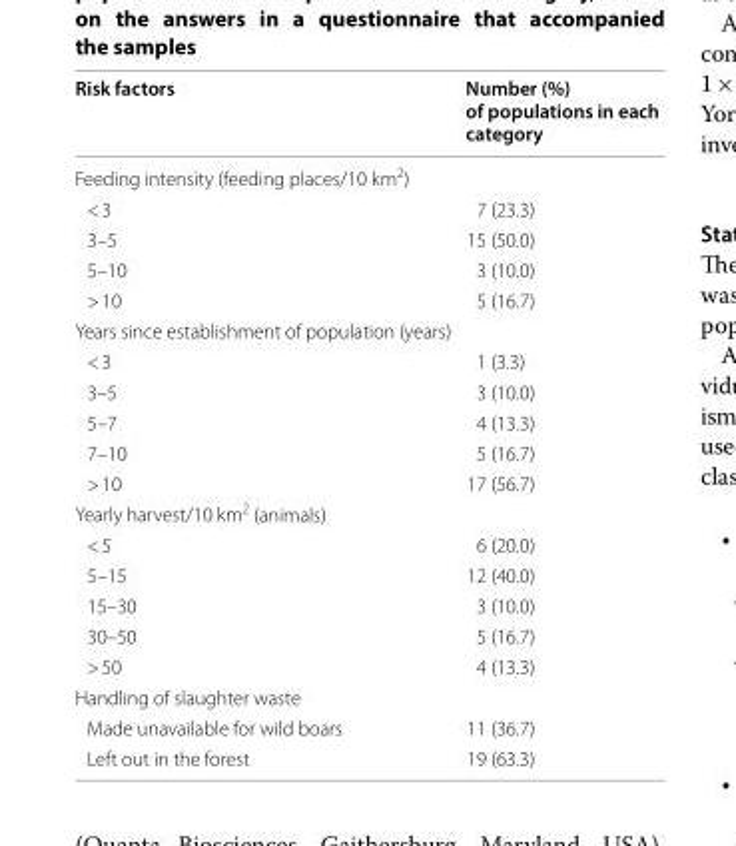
<table><thead><tr><td>Risk factors</td><td>Number (%) of populations in each category</td></tr></thead><tbody><tr><td colspan="2">Feeding intensity (feeding places/10 km<sup>2</sup>)</td></tr><tr><td>&lt; 3</td><td>7 (23.3)</td></tr><tr><td>3–5</td><td>15 (50.0)</td></tr><tr><td>5–10</td><td>3 (10.0)</td></tr><tr><td>&gt; 10</td><td>5 (16.7)</td></tr><tr><td colspan="2">Years since establishment of population (years)</td></tr><tr><td>&lt; 3</td><td>1 (3.3)</td></tr><tr><td>3–5</td><td>3 (10.0)</td></tr><tr><td>5–7</td><td>4 (13.3)</td></tr><tr><td>7–10</td><td>5 (16.7)</td></tr><tr><td>&gt; 10</td><td>17 (56.7)</td></tr><tr><td colspan="2">Yearly harvest/10 km<sup>2</sup> (animals)</td></tr><tr><td>&lt; 5</td><td>6 (20.0)</td></tr><tr><td>5–15</td><td>12 (40.0)</td></tr><tr><td>15–30</td><td>3 (10.0)</td></tr><tr><td>30–50</td><td>5 (16.7)</td></tr><tr><td>&gt; 50</td><td>4 (13.3)</td></tr><tr><td colspan="2">Handling of slaughter waste</td></tr><tr><td>Made unavailable for wild boars</td><td>11 (36.7)</td></tr><tr><td>Left out in the forest</td><td>19 (63.3)</td></tr></tbody></table>